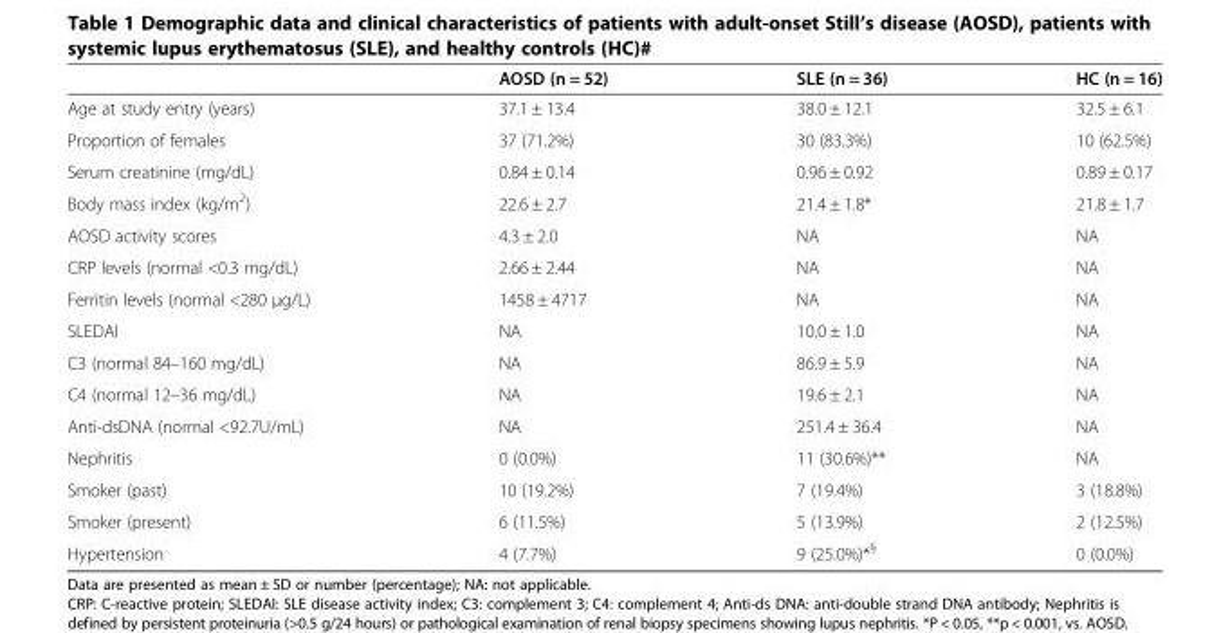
<table><thead><tr><td></td><td>AOSD (n = 52)</td><td>SLE (n = 36)</td><td>HC (n = 16)</td></tr></thead><tbody><tr><td>Age at study entry (years)</td><td>37.1 ± 13.4</td><td>38.0 ± 12.1</td><td>32.5 ± 6.1</td></tr><tr><td>Proportion of females</td><td>37 (71.2%)</td><td>30 (83.3%)</td><td>10 (62.5%)</td></tr><tr><td>Serum creatinine (mg/dL)</td><td>0.84 ± 0.14</td><td>0.96 ± 0.92</td><td>0.89 ± 0.17</td></tr><tr><td>Body mass index (kg/m<sup>2</sup>)</td><td>22.6 ± 2.7</td><td>21.4 ± 1.8*</td><td>21.8 ± 1.7</td></tr><tr><td>AOSD activity scores</td><td>4.3 ± 2.0</td><td>NA</td><td>NA</td></tr><tr><td>CRP levels (normal &lt;0.3 mg/dL)</td><td>2.66 ± 2.44</td><td>NA</td><td>NA</td></tr><tr><td>Ferritin levels (normal &lt;280 μg/L)</td><td>1458 ± 4717</td><td>NA</td><td>NA</td></tr><tr><td>SLEDAI</td><td>NA</td><td>10.0 ± 1.0</td><td>NA</td></tr><tr><td>C3 (normal 84–160 mg/dL)</td><td>NA</td><td>86.9 ± 5.9</td><td>NA</td></tr><tr><td>C4 (normal 12–36 mg/dL)</td><td>NA</td><td>19.6 ± 2.1</td><td>NA</td></tr><tr><td>Anti-dsDNA (normal &lt;92.7U/mL)</td><td>NA</td><td>251.4 ± 36.4</td><td>NA</td></tr><tr><td>Nephritis</td><td>0 (0.0%)</td><td>11 (30.6%)**</td><td>NA</td></tr><tr><td>Smoker (past)</td><td>10 (19.2%)</td><td>7 (19.4%)</td><td>3 (18.8%)</td></tr><tr><td>Smoker (present)</td><td>6 (11.5%)</td><td>5 (13.9%)</td><td>2 (12.5%)</td></tr><tr><td>Hypertension</td><td>4 (7.7%)</td><td>9 (25.0%)*<sup>§</sup></td><td>0 (0.0%)</td></tr></tbody></table>